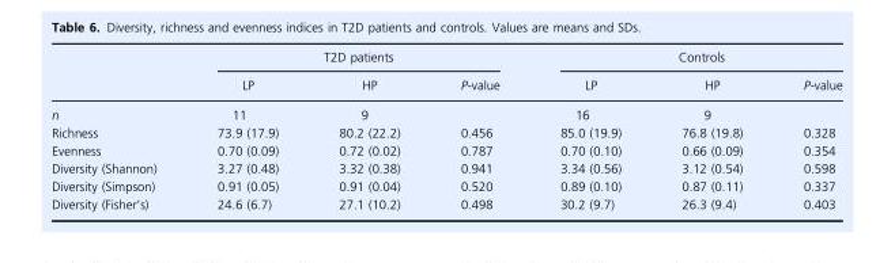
<table><thead><tr><td rowspan="2"></td><td colspan="3">T2D patients</td><td colspan="3">Controls</td></tr><tr><td>LP</td><td>HP</td><td>P-value</td><td>LP</td><td>HP</td><td>P-value</td></tr></thead><tbody><tr><td>n</td><td>11</td><td>9</td><td></td><td>16</td><td>9</td><td></td></tr><tr><td>Richness</td><td>73.9 (17.9)</td><td>80.2 (22.2)</td><td>0.456</td><td>85.0 (19.9)</td><td>76.8 (19.8)</td><td>0.328</td></tr><tr><td>Evenness</td><td>0.70 (0.09)</td><td>0.72 (0.02)</td><td>0.787</td><td>0.70 (0.10)</td><td>0.66 (0.09)</td><td>0.354</td></tr><tr><td>Diversity (Shannon)</td><td>3.27 (0.48)</td><td>3.32 (0.38)</td><td>0.941</td><td>3.34 (0.56)</td><td>3.12 (0.54)</td><td>0.598</td></tr><tr><td>Diversity (Simpson)</td><td>0.91 (0.05)</td><td>0.91 (0.04)</td><td>0.520</td><td>0.89 (0.10)</td><td>0.87 (0.11)</td><td>0.337</td></tr><tr><td>Diversity (Fisher’s)</td><td>24.6 (6.7)</td><td>27.1 (10.2)</td><td>0.498</td><td>30.2 (9.7)</td><td>26.3 (9.4)</td><td>0.403</td></tr></tbody></table>